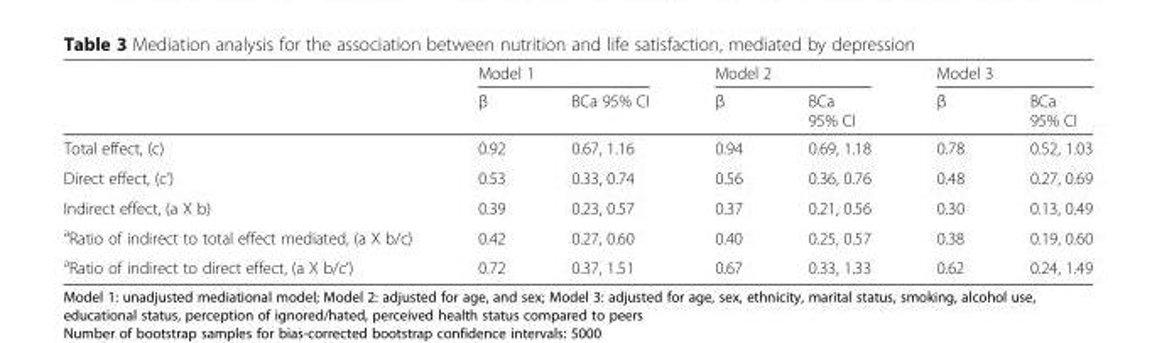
<table><thead><tr><td rowspan="2"></td><td colspan="2">Model 1</td><td colspan="2">Model 2</td><td colspan="2">Model 3</td></tr><tr><td>β</td><td>BCa 95% CI</td><td>β</td><td>BCa 95% CI</td><td>β</td><td>BCa 95% CI</td></tr></thead><tbody><tr><td>Total effect, (c)</td><td>0.92</td><td>0.67, 1.16</td><td>0.94</td><td>0.69, 1.18</td><td>0.78</td><td>0.52, 1.03</td></tr><tr><td>Direct effect, (c’)</td><td>0.53</td><td>0.33, 0.74</td><td>0.56</td><td>0.36, 0.76</td><td>0.48</td><td>0.27, 0.69</td></tr><tr><td>Indirect effect, (a X b)</td><td>0.39</td><td>0.23, 0.57</td><td>0.37</td><td>0.21, 0.56</td><td>0.30</td><td>0.13, 0.49</td></tr><tr><td><sup>a</sup>Ratio of indirect to total effect mediated, (a X b/c)</td><td>0.42</td><td>0.27, 0.60</td><td>0.40</td><td>0.25, 0.57</td><td>0.38</td><td>0.19, 0.60</td></tr><tr><td><sup>a</sup>Ratio of indirect to direct effect, (a X b/c’)</td><td>0.72</td><td>0.37, 1.51</td><td>0.67</td><td>0.33, 1.33</td><td>0.62</td><td>0.24, 1.49</td></tr></tbody></table>